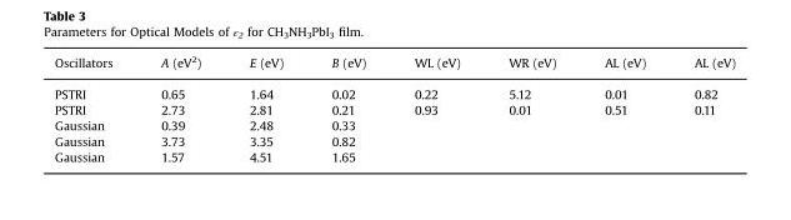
<table><thead><tr><td>Oscillators</td><td>A (eV<sup>2</sup>)</td><td>E (eV)</td><td>B (eV)</td><td>WL (eV)</td><td>WR (eV)</td><td>AL (eV)</td><td>AL (eV)</td></tr></thead><tbody><tr><td>PSTRI</td><td>0.65</td><td>1.64</td><td>0.02</td><td>0.22</td><td>5.12</td><td>0.01</td><td>0.82</td></tr><tr><td>PSTRI</td><td>2.73</td><td>2.81</td><td>0.21</td><td>0.93</td><td>0.01</td><td>0.51</td><td>0.11</td></tr><tr><td>Gaussian</td><td>0.39</td><td>2.48</td><td>0.33</td><td></td><td></td><td></td><td></td></tr><tr><td>Gaussian</td><td>3.73</td><td>3.35</td><td>0.82</td><td></td><td></td><td></td><td></td></tr><tr><td>Gaussian</td><td>1.57</td><td>4.51</td><td>1.65</td><td></td><td></td><td></td><td></td></tr></tbody></table>